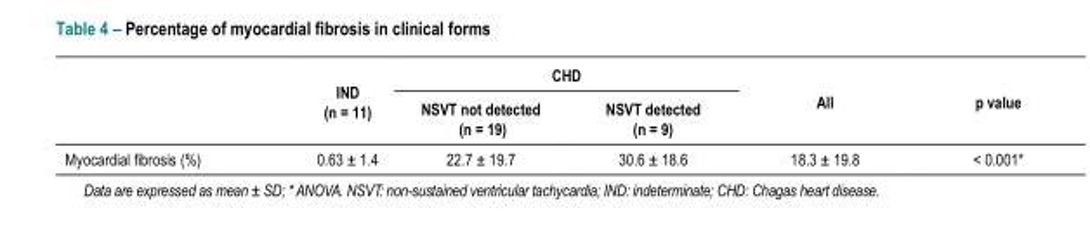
<table><thead><tr><td rowspan="2"></td><td rowspan="2">IND (n = 11)</td><td colspan="2">CHD</td><td rowspan="2">All</td><td rowspan="2">p value</td></tr><tr><td>NSVT not detected (n = 19)</td><td>NSVT detected (n = 9)</td></tr></thead><tbody><tr><td>Myocardial fibrosis (%)</td><td>0.63 ± 1.4</td><td>22.7 ± 19.7</td><td>30.6 ± 18.6</td><td>18.3 ± 19.8</td><td>&lt; 0.001*</td></tr></tbody></table>